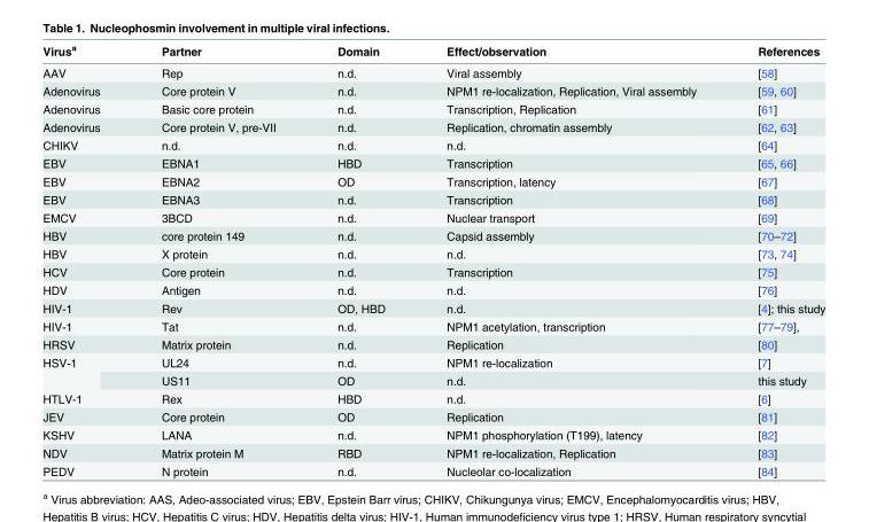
<table><thead><tr><td>Virus<sup>a</sup></td><td>Partner</td><td>Domain</td><td>Effect/observation</td><td>References</td></tr></thead><tbody><tr><td>AAV</td><td>Rep</td><td>n.d.</td><td>Viral assembly</td><td>[58]</td></tr><tr><td>Adenovirus</td><td>Core protein V</td><td>n.d.</td><td>NPM1 re-localization, Replication, Viral assembly</td><td>[59, 60]</td></tr><tr><td>Adenovirus</td><td>Basic core protein</td><td>n.d.</td><td>Transcription, Replication</td><td>[61]</td></tr><tr><td>Adenovirus</td><td>Core protein V, pre-VII</td><td>n.d.</td><td>Replication, chromatin assembly</td><td>[62, 63]</td></tr><tr><td>CHIKV</td><td>n.d.</td><td>n.d.</td><td>n.d.</td><td>[64]</td></tr><tr><td>EBV</td><td>EBNA1</td><td>HBD</td><td>Transcription</td><td>[65, 66]</td></tr><tr><td>EBV</td><td>EBNA2</td><td>OD</td><td>Transcription, latency</td><td>[67]</td></tr><tr><td>EBV</td><td>EBNA3</td><td>n.d.</td><td>Transcription</td><td>[68]</td></tr><tr><td>EMCV</td><td>3BCD</td><td>n.d.</td><td>Nuclear transport</td><td>[69]</td></tr><tr><td>HBV</td><td>core protein 149</td><td>n.d.</td><td>Capsid assembly</td><td>[70–72]</td></tr><tr><td>HBV</td><td>X protein</td><td>n.d.</td><td>n.d.</td><td>[73, 74]</td></tr><tr><td>HCV</td><td>Core protein</td><td>n.d.</td><td>Transcription</td><td>[75]</td></tr><tr><td>HDV</td><td>Antigen</td><td>n.d.</td><td>n.d.</td><td>[76]</td></tr><tr><td>HIV-1</td><td>Rev</td><td>OD, HBD</td><td>n.d.</td><td>[4]; this study</td></tr><tr><td>HIV-1</td><td>Tat</td><td>n.d.</td><td>NPM1 acetylation, transcription</td><td>[77–79],</td></tr><tr><td>HRSV</td><td>Matrix protein</td><td>n.d.</td><td>Replication</td><td>[80]</td></tr><tr><td rowspan="2">HSV-1</td><td>UL24</td><td>n.d.</td><td>NPM1 re-localization</td><td>[7]</td></tr><tr><td>US11</td><td>OD</td><td>n.d.</td><td>this study</td></tr><tr><td>HTLV-1</td><td>Rex</td><td>HBD</td><td>n.d.</td><td>[6]</td></tr><tr><td>JEV</td><td>Core protein</td><td>OD</td><td>Replication</td><td>[81]</td></tr><tr><td>KSHV</td><td>LANA</td><td>n.d.</td><td>NPM1 phosphorylation (T199), latency</td><td>[82]</td></tr><tr><td>NDV</td><td>Matrix protein M</td><td>RBD</td><td>NPM1 re-localization, Replication</td><td>[83]</td></tr><tr><td>PEDV</td><td>N protein</td><td>n.d.</td><td>Nucleolar co-localization</td><td>[84]</td></tr></tbody></table>